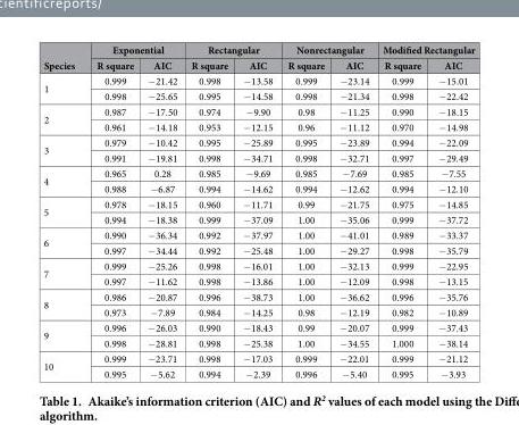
<table><thead><tr><td rowspan="2">Species</td><td colspan="2">Exponential</td><td colspan="2">Rectangular</td><td colspan="2">Nonrectangular</td><td colspan="2">Modified Rectangular</td></tr><tr><td>R square</td><td>AIC</td><td>R square</td><td>AIC</td><td>R square</td><td>AIC</td><td>R square</td><td>AIC</td></tr></thead><tbody><tr><td rowspan="2">1</td><td>0.999</td><td>− 21.42</td><td>0.998</td><td>− 13.58</td><td>0.999</td><td>− 23.14</td><td>0.999</td><td>− 15.01</td></tr><tr><td>0.998</td><td>− 25.65</td><td>0.995</td><td>− 14.58</td><td>0.998</td><td>− 21.34</td><td>0.998</td><td>− 22.42</td></tr><tr><td rowspan="2">2</td><td>0.987</td><td>− 17.50</td><td>0.974</td><td>− 9.90</td><td>0.98</td><td>− 11.25</td><td>0.990</td><td>− 18.15</td></tr><tr><td>0.961</td><td>− 14.18</td><td>0.953</td><td>− 12.15</td><td>0.96</td><td>− 11.12</td><td>0.970</td><td>− 14.98</td></tr><tr><td rowspan="2">3</td><td>0.979</td><td>− 10.42</td><td>0.995</td><td>− 25.89</td><td>0.995</td><td>− 23.89</td><td>0.994</td><td>− 22.09</td></tr><tr><td>0.991</td><td>− 19.81</td><td>0.998</td><td>− 34.71</td><td>0.998</td><td>− 32.71</td><td>0.997</td><td>− 29.49</td></tr><tr><td rowspan="2">4</td><td>0.965</td><td>0.28</td><td>0.985</td><td>− 9.69</td><td>0.985</td><td>− 7.69</td><td>0.985</td><td>− 7.55</td></tr><tr><td>0.988</td><td>− 6.87</td><td>0.994</td><td>− 14.62</td><td>0.994</td><td>− 12.62</td><td>0.994</td><td>− 12.10</td></tr><tr><td rowspan="2">5</td><td>0.978</td><td>− 18.15</td><td>0.960</td><td>− 11.71</td><td>0.99</td><td>− 21.75</td><td>0.975</td><td>− 14.85</td></tr><tr><td>0.994</td><td>− 18.38</td><td>0.999</td><td>− 37.09</td><td>1.00</td><td>− 35.06</td><td>0.999</td><td>− 37.72</td></tr><tr><td rowspan="2">6</td><td>0.990</td><td>− 36.34</td><td>0.992</td><td>− 37.97</td><td>1.00</td><td>− 41.01</td><td>0.989</td><td>− 33.37</td></tr><tr><td>0.997</td><td>− 34.44</td><td>0.992</td><td>− 25.48</td><td>1.00</td><td>− 29.27</td><td>0.998</td><td>− 35.79</td></tr><tr><td rowspan="2">7</td><td>0.999</td><td>− 25.26</td><td>0.998</td><td>− 16.01</td><td>1.00</td><td>− 32.13</td><td>0.999</td><td>− 22.95</td></tr><tr><td>0.997</td><td>− 11.62</td><td>0.998</td><td>− 13.86</td><td>1.00</td><td>− 12.09</td><td>0.998</td><td>− 13.15</td></tr><tr><td rowspan="2">8</td><td>0.986</td><td>− 20.87</td><td>0.996</td><td>− 38.73</td><td>1.00</td><td>− 36.62</td><td>0.996</td><td>− 35.76</td></tr><tr><td>0.973</td><td>− 7.89</td><td>0.984</td><td>− 14.25</td><td>0.98</td><td>− 12.19</td><td>0.982</td><td>− 10.89</td></tr><tr><td rowspan="2">9</td><td>0.996</td><td>− 26.03</td><td>0.990</td><td>− 18.43</td><td>0.99</td><td>− 20.07</td><td>0.999</td><td>− 37.43</td></tr><tr><td>0.998</td><td>− 28.81</td><td>0.998</td><td>− 25.38</td><td>1.00</td><td>− 34.55</td><td>1.000</td><td>− 38.14</td></tr><tr><td rowspan="2">10</td><td>0.999</td><td>− 23.71</td><td>0.998</td><td>− 17.03</td><td>0.999</td><td>− 22.01</td><td>0.999</td><td>− 21.12</td></tr><tr><td>0.995</td><td>− 5.62</td><td>0.994</td><td>− 2.39</td><td>0.996</td><td>− 5.40</td><td>0.995</td><td>− 3.93</td></tr></tbody></table>